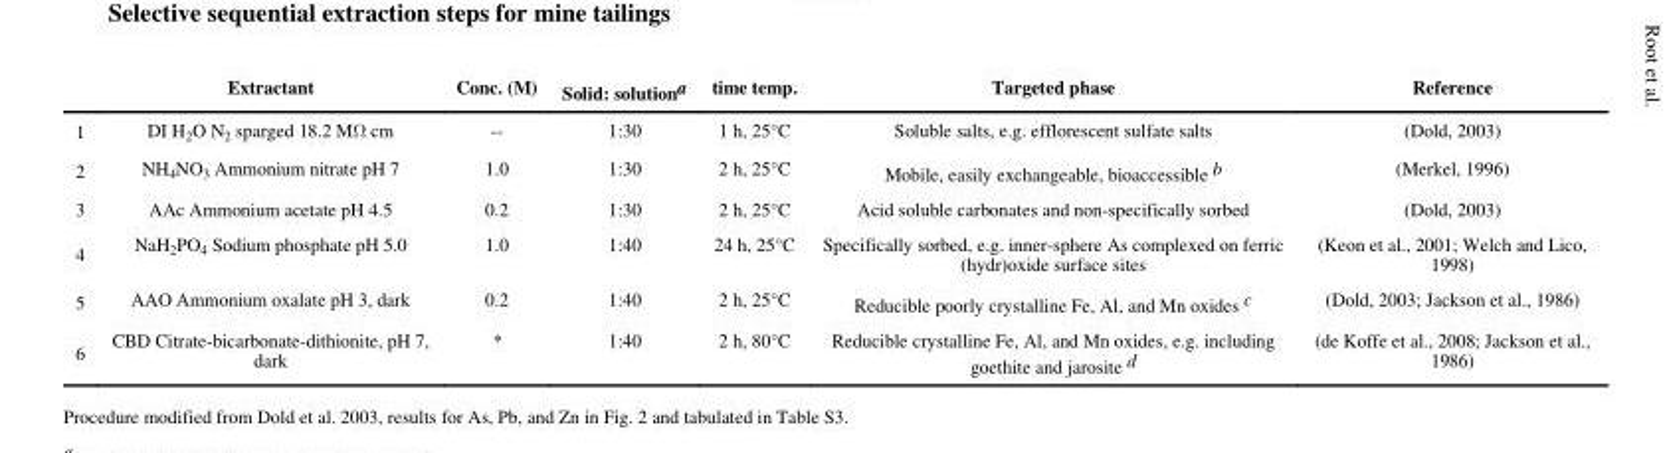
<table><thead><tr><td></td><td>Extractant</td><td>Conc. (M)</td><td>Solid: solution<sup>a</sup></td><td>time temp.</td><td>Targeted phase</td><td>Reference</td></tr></thead><tbody><tr><td>1</td><td>DI H<sub>2</sub>O N<sub>2</sub> sparged 18.2 MΩ cm</td><td>--</td><td>1:30</td><td>1 h, 25°C</td><td>Soluble salts, e.g. efflorescent sulfate salts</td><td>(Dold, 2003)</td></tr><tr><td>2</td><td>NH<sub>4</sub>NO<sub>3</sub> Ammonium nitrate pH 7</td><td>1.0</td><td>1:30</td><td>2 h, 25°C</td><td>Mobile, easily exchangeable, bioaccessible b</td><td>(Merkel, 1996)</td></tr><tr><td>3</td><td>AAc Ammonium acetate pH 4.5</td><td>0.2</td><td>1:30</td><td>2 h, 25°C</td><td>Acid soluble carbonates and non-specifically sorbed</td><td>(Dold, 2003)</td></tr><tr><td>4</td><td>NaH<sub>2</sub>PO<sub>4</sub> Sodium phosphate pH 5.0</td><td>1.0</td><td>1:40</td><td>24 h, 25°C</td><td>Specifically sorbed, e.g. inner-sphere As complexed on ferric (hydr)oxide surface sites</td><td>(Keon et al., 2001; Welch and Lico, 1998)</td></tr><tr><td>5</td><td>AAO Ammonium oxalate pH 3, dark</td><td>0.2</td><td>1:40</td><td>2 h, 25°C</td><td>Reducible poorly crystalline Fe, Al, and Mn oxides c</td><td>(Dold, 2003; Jackson et al., 1986)</td></tr><tr><td>6</td><td>CBD Citrate-bicarbonate-dithionite, pH 7, dark</td><td>*</td><td>1:40</td><td>2 h, 80°C</td><td>Reducible crystalline Fe, Al, and Mn oxides, e.g. including goethite and jarosite d</td><td>(de Koffe et al., 2008; Jackson et al., 1986)</td></tr></tbody></table>